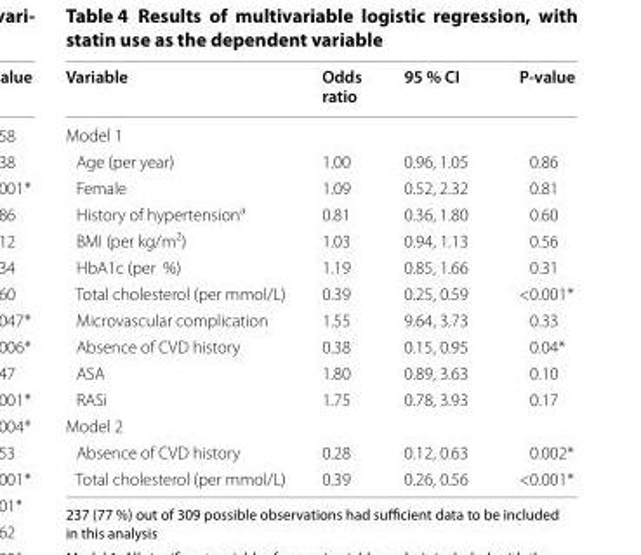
<table><thead><tr><td>Variable</td><td>Odds ratio</td><td>95 % CI</td><td>P‑value</td></tr></thead><tbody><tr><td colspan="4">Model 1</td></tr><tr><td>Age (per year)</td><td>1.00</td><td>0.96, 1.05</td><td>0.86</td></tr><tr><td>Female</td><td>1.09</td><td>0.52, 2.32</td><td>0.81</td></tr><tr><td>History of hypertension<sup>a</sup></td><td>0.81</td><td>0.36, 1.80</td><td>0.60</td></tr><tr><td>BMI (per kg/m<sup>2</sup>)</td><td>1.03</td><td>0.94, 1.13</td><td>0.56</td></tr><tr><td>HbA1c (per %)</td><td>1.19</td><td>0.85, 1.66</td><td>0.31</td></tr><tr><td>Total cholesterol (per mmol/L)</td><td>0.39</td><td>0.25, 0.59</td><td>&lt;0.001*</td></tr><tr><td>Microvascular complication</td><td>1.55</td><td>9.64, 3.73</td><td>0.33</td></tr><tr><td>Absence of CVD history</td><td>0.38</td><td>0.15, 0.95</td><td>0.04*</td></tr><tr><td>ASA</td><td>1.80</td><td>0.89, 3.63</td><td>0.10</td></tr><tr><td>RASi</td><td>1.75</td><td>0.78, 3.93</td><td>0.17</td></tr><tr><td colspan="4">Model 2</td></tr><tr><td>Absence of CVD history</td><td>0.28</td><td>0.12, 0.63</td><td>0.002*</td></tr><tr><td>Total cholesterol (per mmol/L)</td><td>0.39</td><td>0.26, 0.56</td><td>&lt;0.001*</td></tr></tbody></table>